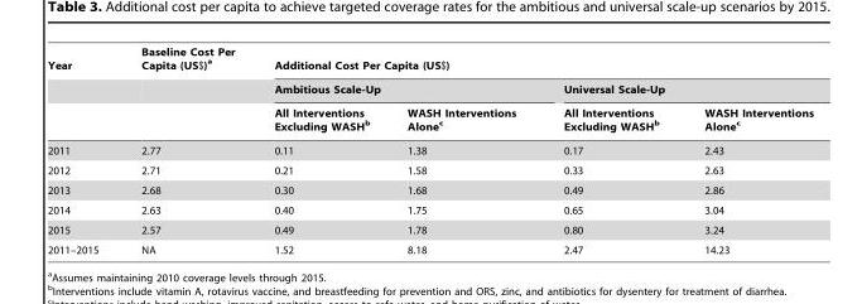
<table><thead><tr><td rowspan="3">Year</td><td rowspan="3">Baseline Cost Per Capita (US$)<sup>a</sup></td><td colspan="4">Additional Cost Per Capita (US$)</td></tr><tr><td colspan="2">Ambitious Scale-Up</td><td colspan="2">Universal Scale-Up</td></tr><tr><td>All Interventions Excluding WASH<sup>b</sup></td><td>WASH Interventions Alone<sup>c</sup></td><td>All Interventions Excluding WASH<sup>b</sup></td><td>WASH Interventions Alone<sup>c</sup></td></tr></thead><tbody><tr><td>2011</td><td>2.77</td><td>0.11</td><td>1.38</td><td>0.17</td><td>2.43</td></tr><tr><td>2012</td><td>2.71</td><td>0.21</td><td>1.58</td><td>0.33</td><td>2.63</td></tr><tr><td>2013</td><td>2.68</td><td>0.30</td><td>1.68</td><td>0.49</td><td>2.86</td></tr><tr><td>2014</td><td>2.63</td><td>0.40</td><td>1.75</td><td>0.65</td><td>3.04</td></tr><tr><td>2015</td><td>2.57</td><td>0.49</td><td>1.78</td><td>0.80</td><td>3.24</td></tr><tr><td>2011–2015</td><td>NA</td><td>1.52</td><td>8.18</td><td>2.47</td><td>14.23</td></tr></tbody></table>